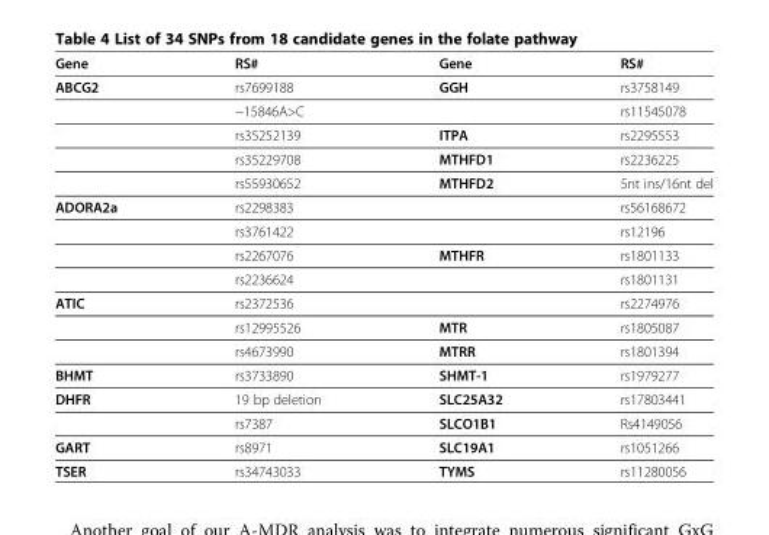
<table><thead><tr><td>Gene</td><td>RS#</td><td>Gene</td><td>RS#</td></tr></thead><tbody><tr><td rowspan="5">ABCG2</td><td>rs7699188</td><td>GGH</td><td>rs3758149</td></tr><tr><td>−15846A&gt;C</td><td></td><td>rs11545078</td></tr><tr><td>rs35252139</td><td>ITPA</td><td>rs2295553</td></tr><tr><td>rs35229708</td><td>MTHFD1</td><td>rs2236225</td></tr><tr><td>rs55930652</td><td>MTHFD2</td><td>5nt ins/16nt del</td></tr><tr><td rowspan="4">ADORA2a</td><td>rs2298383</td><td></td><td>rs56168672</td></tr><tr><td>rs3761422</td><td></td><td>rs12196</td></tr><tr><td>rs2267076</td><td>MTHFR</td><td>rs1801133</td></tr><tr><td>rs2236624</td><td></td><td>rs1801131</td></tr><tr><td rowspan="3">ATIC</td><td>rs2372536</td><td></td><td>rs2274976</td></tr><tr><td>rs12995526</td><td>MTR</td><td>rs1805087</td></tr><tr><td>rs4673990</td><td>MTRR</td><td>rs1801394</td></tr><tr><td>BHMT</td><td>rs3733890</td><td>SHMT-1</td><td>rs1979277</td></tr><tr><td rowspan="2">DHFR</td><td>19 bp deletion</td><td>SLC25A32</td><td>rs17803441</td></tr><tr><td>rs7387</td><td>SLCO1B1</td><td>Rs4149056</td></tr><tr><td>GART</td><td>rs8971</td><td>SLC19A1</td><td>rs1051266</td></tr><tr><td>TSER</td><td>rs34743033</td><td>TYMS</td><td>rs11280056</td></tr></tbody></table>